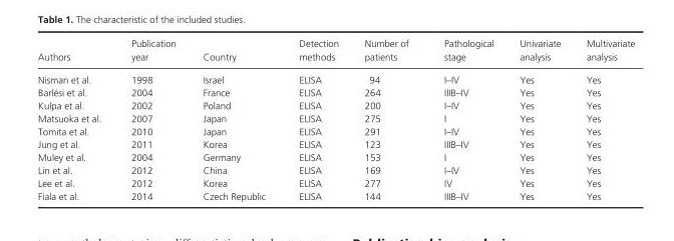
<table><thead><tr><td>Authors</td><td>Publication year</td><td>Country</td><td>Detection methods</td><td>Number of patients</td><td>Pathological stage</td><td>Univariate analysis</td><td>Multivariate analysis</td></tr></thead><tbody><tr><td>Nisman et al.</td><td>1998</td><td>Israel</td><td>ELISA</td><td>94</td><td>I–IV</td><td>Yes</td><td>Yes</td></tr><tr><td>Barlési et al.</td><td>2004</td><td>France</td><td>ELISA</td><td>264</td><td>IIIB–IV</td><td>Yes</td><td>Yes</td></tr><tr><td>Kulpa et al.</td><td>2002</td><td>Poland</td><td>ELISA</td><td>200</td><td>I–IV</td><td>Yes</td><td>Yes</td></tr><tr><td>Matsuoka et al.</td><td>2007</td><td>Japan</td><td>ELISA</td><td>275</td><td>I</td><td>Yes</td><td>Yes</td></tr><tr><td>Tomita et al.</td><td>2010</td><td>Japan</td><td>ELISA</td><td>291</td><td>I–IV</td><td>Yes</td><td>Yes</td></tr><tr><td>Jung et al.</td><td>2011</td><td>Korea</td><td>ELISA</td><td>123</td><td>IIIB–IV</td><td>Yes</td><td>Yes</td></tr><tr><td>Muley et al.</td><td>2004</td><td>Germany</td><td>ELISA</td><td>153</td><td>I</td><td>Yes</td><td>Yes</td></tr><tr><td>Lin et al.</td><td>2012</td><td>China</td><td>ELISA</td><td>169</td><td>I–IV</td><td>Yes</td><td>Yes</td></tr><tr><td>Lee et al.</td><td>2012</td><td>Korea</td><td>ELISA</td><td>277</td><td>IV</td><td>Yes</td><td>Yes</td></tr><tr><td>Fiala et al.</td><td>2014</td><td>Czech Republic</td><td>ELISA</td><td>144</td><td>IIIB–IV</td><td>Yes</td><td>Yes</td></tr></tbody></table>